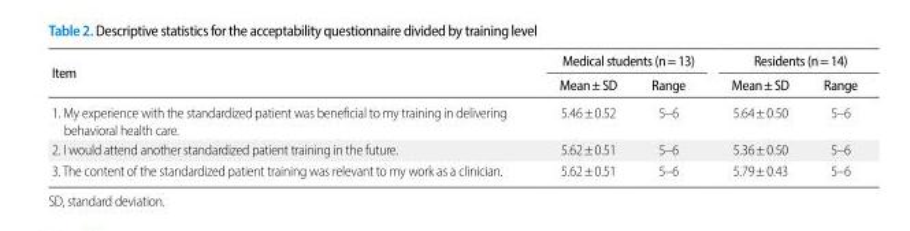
<table><thead><tr><td rowspan="2">Item</td><td colspan="2">Medical students (n=13)</td><td colspan="2">Residents (n=14)</td></tr><tr><td>Mean±SD</td><td>Range</td><td>Mean±SD</td><td>Range</td></tr></thead><tbody><tr><td>1. My experience with the standardized patient was beneficial to my training in delivering behavioral health care.</td><td>5.46±0.52</td><td>5–6</td><td>5.64±0.50</td><td>5–6</td></tr><tr><td>2. I would attend another standardized patient training in the future.</td><td>5.62±0.51</td><td>5–6</td><td>5.36±0.50</td><td>5–6</td></tr><tr><td>3. The content of the standardized patient training was relevant to my work as a clinician.</td><td>5.62±0.51</td><td>5–6</td><td>5.79±0.43</td><td>5–6</td></tr></tbody></table>